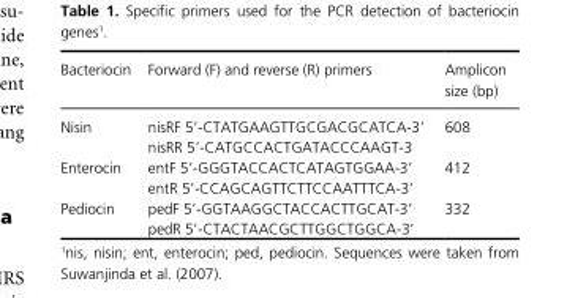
<table><thead><tr><td>Bacteriocin</td><td>Forward (F) and reverse (R) primers</td><td>Amplicon size (bp)</td></tr></thead><tbody><tr><td rowspan="2">Nisin</td><td>nisRF 5’- CTATGAAGTTGCGACGCATCA- 3’</td><td rowspan="2">608</td></tr><tr><td>nisRR 5’- CATGCCACTGATACCCAAGT- 3</td></tr><tr><td rowspan="2">Enterocin</td><td>entF 5’- GGGTACCACTCATAGTGGAA- 3’</td><td rowspan="2">412</td></tr><tr><td>entR 5’- CCAGCAGTTCTTCCAATTTCA- 3’</td></tr><tr><td rowspan="2">Pediocin</td><td>pedF 5’- GGTAAGGCTACCACTTGCAT- 3’</td><td rowspan="2">332</td></tr><tr><td>pedR 5’- CTACTAACGCTTGGCTGGCA- 3’</td></tr></tbody></table>